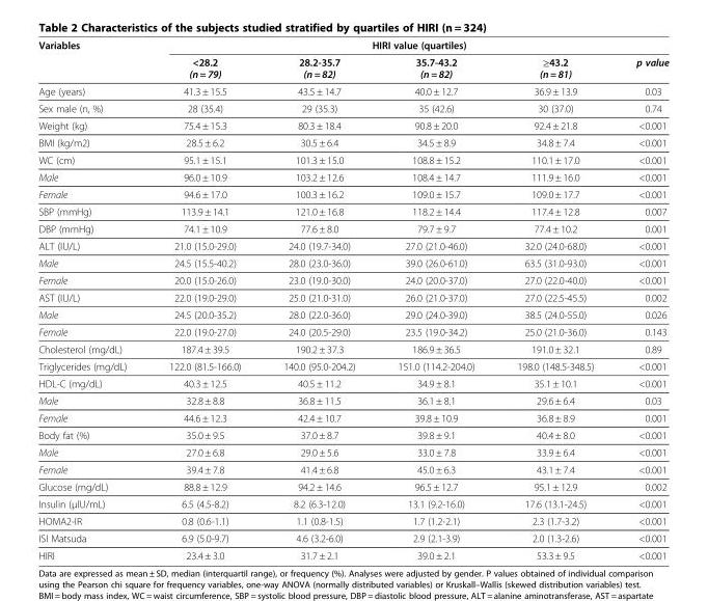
<table><thead><tr><td rowspan="2">Variables</td><td colspan="5">HIRI value (quartiles)</td></tr><tr><td>&lt;28.2 (n = 79)</td><td>28.2-35.7 (n = 82)</td><td>35.7-43.2 (n = 82)</td><td>≥43.2 (n = 81)</td><td>p value</td></tr></thead><tbody><tr><td>Age (years)</td><td>41.3 ± 15.5</td><td>43.5 ± 14.7</td><td>40.0 ± 12.7</td><td>36.9 ± 13.9</td><td>0.03</td></tr><tr><td>Sex male (n, %)</td><td>28 (35.4)</td><td>29 (35.3)</td><td>35 (42.6)</td><td>30 (37.0)</td><td>0.74</td></tr><tr><td>Weight (kg)</td><td>75.4 ± 15.3</td><td>80.3 ± 18.4</td><td>90.8 ± 20.0</td><td>92.4 ± 21.8</td><td>&lt;0.001</td></tr><tr><td>BMI (kg/m2)</td><td>28.5 ± 6.2</td><td>30.5 ± 6.4</td><td>34.5 ± 8.9</td><td>34.8 ± 7.4</td><td>&lt;0.001</td></tr><tr><td>WC (cm)</td><td>95.1 ± 15.1</td><td>101.3 ± 15.0</td><td>108.8 ± 15.2</td><td>110.1 ± 17.0</td><td>&lt;0.001</td></tr><tr><td>Male</td><td>96.0 ± 10.9</td><td>103.2 ± 12.6</td><td>108.4 ± 14.7</td><td>111.9 ± 16.0</td><td>&lt;0.001</td></tr><tr><td>Female</td><td>94.6 ± 17.0</td><td>100.3 ± 16.2</td><td>109.0 ± 15.7</td><td>109.0 ± 17.7</td><td>&lt;0.001</td></tr><tr><td>SBP (mmHg)</td><td>113.9 ± 14.1</td><td>121.0 ± 16.8</td><td>118.2 ± 14.4</td><td>117.4 ± 12.8</td><td>0.007</td></tr><tr><td>DBP (mmHg)</td><td>74.1 ± 10.9</td><td>77.6 ± 8.0</td><td>79.7 ± 9.7</td><td>77.4 ± 10.2</td><td>0.001</td></tr><tr><td>ALT (IU/L)</td><td>21.0 (15.0-29.0)</td><td>24.0 (19.7-34.0)</td><td>27.0 (21.0-46.0)</td><td>32.0 (24.0-68.0)</td><td>&lt;0.001</td></tr><tr><td>Male</td><td>24.5 (15.5-40.2)</td><td>28.0 (23.0-36.0)</td><td>39.0 (26.0-61.0)</td><td>63.5 (31.0-93.0)</td><td>&lt;0.001</td></tr><tr><td>Female</td><td>20.0 (15.0-26.0)</td><td>23.0 (19.0-30.0)</td><td>24.0 (20.0-37.0)</td><td>27.0 (22.0-40.0)</td><td>&lt;0.001</td></tr><tr><td>AST (IU/L)</td><td>22.0 (19.0-29.0)</td><td>25.0 (21.0-31.0)</td><td>26.0 (21.0-37.0)</td><td>27.0 (22.5-45.5)</td><td>0.002</td></tr><tr><td>Male</td><td>24.5 (20.0-35.2)</td><td>28.0 (22.0-36.0)</td><td>29.0 (24.0-39.0)</td><td>38.5 (24.0-55.0)</td><td>0.026</td></tr><tr><td>Female</td><td>22.0 (19.0-27.0)</td><td>24.0 (20.5-29.0)</td><td>23.5 (19.0-34.2)</td><td>25.0 (21.0-36.0)</td><td>0.143</td></tr><tr><td>Cholesterol (mg/dL)</td><td>187.4 ± 39.5</td><td>190.2 ± 37.3</td><td>186.9 ± 36.5</td><td>191.0 ± 32.1</td><td>0.89</td></tr><tr><td>Triglycerides (mg/dL)</td><td>122.0 (81.5-166.0)</td><td>140.0 (95.0-204.2)</td><td>151.0 (114.2-204.0)</td><td>198.0 (148.5-348.5)</td><td>&lt;0.001</td></tr><tr><td>HDL-C (mg/dL)</td><td>40.3 ± 12.5</td><td>40.5 ± 11.2</td><td>34.9 ± 8.1</td><td>35.1 ± 10.1</td><td>&lt;0.001</td></tr><tr><td>Male</td><td>32.8 ± 8.8</td><td>36.8 ± 11.5</td><td>36.1 ± 8.1</td><td>29.6 ± 6.4</td><td>0.03</td></tr><tr><td>Female</td><td>44.6 ± 12.3</td><td>42.4 ± 10.7</td><td>39.8 ± 10.9</td><td>36.8 ± 8.9</td><td>0.001</td></tr><tr><td>Body fat (%)</td><td>35.0 ± 9.5</td><td>37.0 ± 8.7</td><td>39.8 ± 9.1</td><td>40.4 ± 8.0</td><td>&lt;0.001</td></tr><tr><td>Male</td><td>27.0 ± 6.8</td><td>29.0 ± 5.6</td><td>33.0 ± 7.8</td><td>33.9 ± 6.4</td><td>&lt;0.001</td></tr><tr><td>Female</td><td>39.4 ± 7.8</td><td>41.4 ± 6.8</td><td>45.0 ± 6.3</td><td>43.1 ± 7.4</td><td>&lt;0.001</td></tr><tr><td>Glucose (mg/dL)</td><td>88.8 ± 12.9</td><td>94.2 ± 14.6</td><td>96.5 ± 12.7</td><td>95.1 ± 12.9</td><td>0.002</td></tr><tr><td>Insulin (μlU/mL)</td><td>6.5 (4.5-8.2)</td><td>8.2 (6.3-12.0)</td><td>13.1 (9.2-16.0)</td><td>17.6 (13.1-24.5)</td><td>&lt;0.001</td></tr><tr><td>HOMA2-IR</td><td>0.8 (0.6-1.1)</td><td>1.1 (0.8-1.5)</td><td>1.7 (1.2-2.1)</td><td>2.3 (1.7-3.2)</td><td>&lt;0.001</td></tr><tr><td>ISI Matsuda</td><td>6.9 (5.0-9.7)</td><td>4.6 (3.2-6.0)</td><td>2.9 (2.1-3.9)</td><td>2.0 (1.3-2.6)</td><td>&lt;0.001</td></tr><tr><td>HIRI</td><td>23.4 ± 3.0</td><td>31.7 ± 2.1</td><td>39.0 ± 2.1</td><td>53.3 ± 9.5</td><td>&lt;0.001</td></tr></tbody></table>